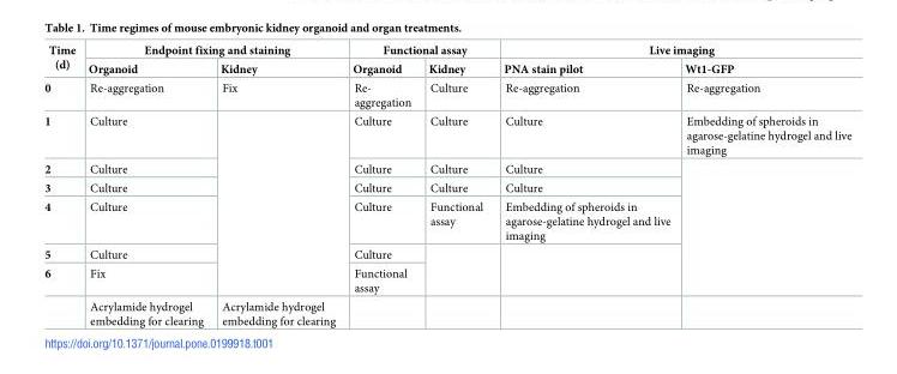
<table><thead><tr><td rowspan="2">Time (d)</td><td colspan="2">Endpoint fixing and staining</td><td colspan="2">Functional assay</td><td colspan="2">Live imaging</td></tr><tr><td>Organoid</td><td>Kidney</td><td>Organoid</td><td>Kidney</td><td>PNA stain pilot</td><td>Wt1-GFP</td></tr></thead><tbody><tr><td>0</td><td>Re-aggregation</td><td>Fix</td><td>Re- aggregation</td><td>Culture</td><td>Re-aggregation</td><td>Re-aggregation</td></tr><tr><td>1</td><td>Culture</td><td rowspan="6"></td><td>Culture</td><td>Culture</td><td>Culture</td><td>Embedding of spheroids in agarose-gelatine hydrogel and live imaging</td></tr><tr><td>2</td><td>Culture</td><td>Culture</td><td>Culture</td><td>Culture</td><td rowspan="5"></td></tr><tr><td>3</td><td>Culture</td><td>Culture</td><td>Culture</td><td>Culture</td></tr><tr><td>4</td><td>Culture</td><td>Culture</td><td>Functional assay</td><td>Embedding of spheroids in agarose-gelatine hydrogel and live imaging</td></tr><tr><td>5</td><td>Culture</td><td>Culture</td><td rowspan="2"></td><td rowspan="2"></td></tr><tr><td rowspan="2">6</td><td>Fix</td><td>Functional assay</td></tr><tr><td>Acrylamide hydrogel embedding for clearing</td><td>Acrylamide hydrogel embedding for clearing</td><td></td><td></td><td></td><td></td></tr></tbody></table>